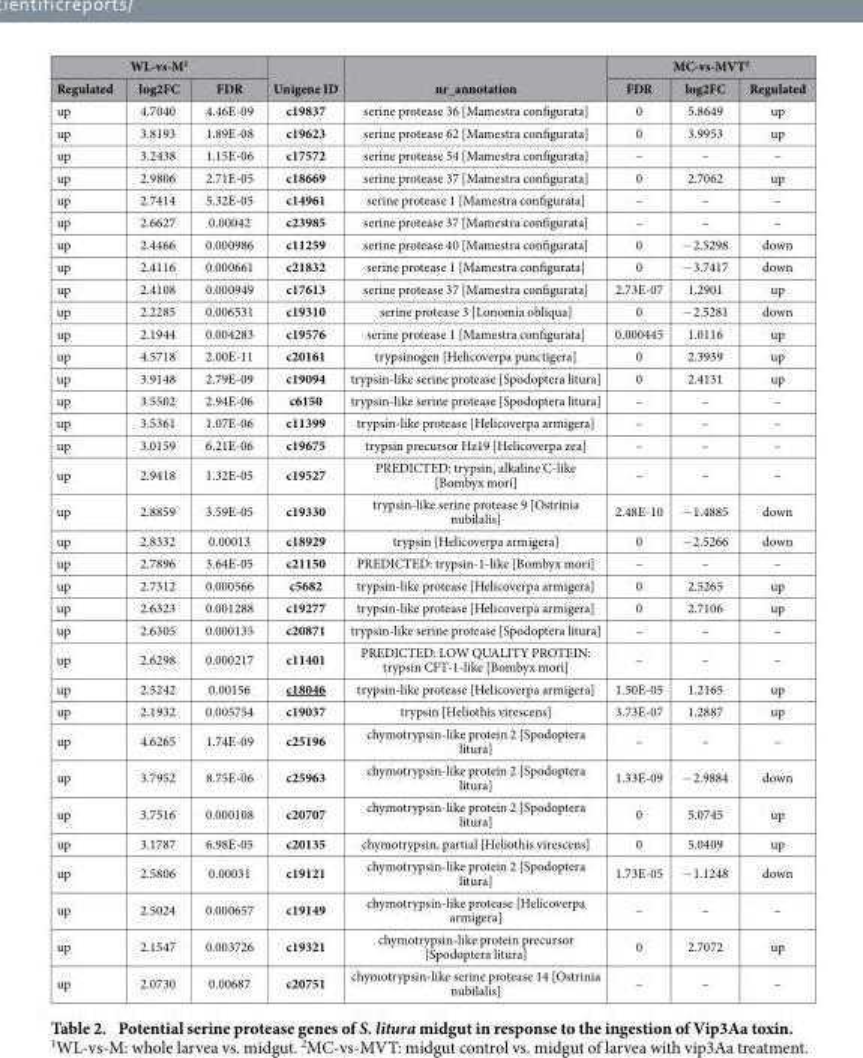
<table><thead><tr><td colspan="3">WL-vs-M<sup>1</sup></td><td rowspan="2">Unigene ID</td><td rowspan="2">nr_annotation</td><td colspan="3">MC-vs-MVT<sup>2</sup></td></tr><tr><td>Regulated</td><td>log2FC</td><td>FDR</td><td>FDR</td><td>log2FC</td><td>Regulated</td></tr></thead><tbody><tr><td>up</td><td>4.7040</td><td>4.46E-09</td><td>c19837</td><td>serine protease 36 [Mamestra configurata]</td><td>0</td><td>5.8649</td><td>up</td></tr><tr><td>up</td><td>3.8193</td><td>1.89E-08</td><td>c19623</td><td>serine protease 62 [Mamestra configurata]</td><td>0</td><td>3.9953</td><td>up</td></tr><tr><td>up</td><td>3.2438</td><td>1.15E-06</td><td>c17572</td><td>serine protease 54 [Mamestra configurata]</td><td>–</td><td>–</td><td>–</td></tr><tr><td>up</td><td>2.9806</td><td>2.71E-05</td><td>c18669</td><td>serine protease 37 [Mamestra configurata]</td><td>0</td><td>2.7062</td><td>up</td></tr><tr><td>up</td><td>2.7414</td><td>5.32E-05</td><td>c14961</td><td>serine protease 1 [Mamestra configurata]</td><td>–</td><td>–</td><td>–</td></tr><tr><td>up</td><td>2.6627</td><td>0.00042</td><td>c23985</td><td>serine protease 37 [Mamestra configurata]</td><td>–</td><td>–</td><td>–</td></tr><tr><td>up</td><td>2.4466</td><td>0.000986</td><td>c11259</td><td>serine protease 40 [Mamestra configurata]</td><td>0</td><td>− 2.5298</td><td>down</td></tr><tr><td>up</td><td>2.4116</td><td>0.000661</td><td>c21832</td><td>serine protease 1 [Mamestra configurata]</td><td>0</td><td>− 3.7417</td><td>down</td></tr><tr><td>up</td><td>2.4108</td><td>0.000949</td><td>c17613</td><td>serine protease 37 [Mamestra configurata]</td><td>2.73E-07</td><td>1.2901</td><td>up</td></tr><tr><td>up</td><td>2.2285</td><td>0.006531</td><td>c19310</td><td>serine protease 3 [Lonomia obliqua]</td><td>0</td><td>− 2.5281</td><td>down</td></tr><tr><td>up</td><td>2.1944</td><td>0.004283</td><td>c19576</td><td>serine protease 1 [Mamestra configurata]</td><td>0.000445</td><td>1.0116</td><td>up</td></tr><tr><td>up</td><td>4.5718</td><td>2.00E-11</td><td>c20161</td><td>trypsinogen [Helicoverpa punctigera]</td><td>0</td><td>2.3939</td><td>up</td></tr><tr><td>up</td><td>3.9148</td><td>2.79E-09</td><td>c19094</td><td>trypsin-like serine protease [Spodoptera litura]</td><td>0</td><td>2.4131</td><td>up</td></tr><tr><td>up</td><td>3.5502</td><td>2.94E-06</td><td>c6150</td><td>trypsin-like serine protease [Spodoptera litura]</td><td>–</td><td>–</td><td>–</td></tr><tr><td>up</td><td>3.5361</td><td>1.07E-06</td><td>c11399</td><td>trypsin-like protease [Helicoverpa armigera]</td><td>–</td><td>–</td><td>–</td></tr><tr><td>up</td><td>3.0159</td><td>6.21E-06</td><td>c19675</td><td>trypsin precursor Hz19 [Helicoverpa zea]</td><td>–</td><td>–</td><td>–</td></tr><tr><td>up</td><td>2.9418</td><td>1.32E-05</td><td>c19527</td><td>PREDICTED: trypsin, alkaline C-like [Bombyx mori]</td><td>–</td><td>–</td><td>–</td></tr><tr><td>up</td><td>2.8859</td><td>3.59E-05</td><td>c19330</td><td>trypsin-like serine protease 9 [Ostrinia nubilalis]</td><td>2.48E-10</td><td>− 1.4885</td><td>down</td></tr><tr><td>up</td><td>2.8332</td><td>0.00013</td><td>c18929</td><td>trypsin [Helicoverpa armigera]</td><td>0</td><td>− 2.5266</td><td>down</td></tr><tr><td>up</td><td>2.7896</td><td>3.64E-05</td><td>c21150</td><td>PREDICTED: trypsin-1-like [Bombyx mori]</td><td>–</td><td>–</td><td>–</td></tr><tr><td>up</td><td>2.7312</td><td>0.000566</td><td>c5682</td><td>trypsin-like protease [Helicoverpa armigera]</td><td>0</td><td>2.5265</td><td>up</td></tr><tr><td>up</td><td>2.6323</td><td>0.001288</td><td>c19277</td><td>trypsin-like protease [Helicoverpa armigera]</td><td>0</td><td>2.7106</td><td>up</td></tr><tr><td>up</td><td>2.6305</td><td>0.000135</td><td>c20871</td><td>trypsin-like serine protease [Spodoptera litura]</td><td>–</td><td>–</td><td>–</td></tr><tr><td>up</td><td>2.6298</td><td>0.000217</td><td>c11401</td><td>PREDICTED: LOW QUALITY PROTEIN: trypsin CFT-1-like [Bombyx mori]</td><td>–</td><td>–</td><td>–</td></tr><tr><td>up</td><td>2.5242</td><td>0.00156</td><td>c18046</td><td>trypsin-like protease [Helicoverpa armigera]</td><td>1.50E-05</td><td>1.2165</td><td>up</td></tr><tr><td>up</td><td>2.1932</td><td>0.005754</td><td>c19037</td><td>trypsin [Heliothis virescens]</td><td>3.73E-07</td><td>1.2887</td><td>up</td></tr><tr><td>up</td><td>4.6265</td><td>1.74E-09</td><td>c25196</td><td>chymotrypsin-like protein 2 [Spodoptera litura]</td><td>–</td><td>–</td><td>–</td></tr><tr><td>up</td><td>3.7952</td><td>8.75E-06</td><td>c25963</td><td>chymotrypsin-like protein 2 [Spodoptera litura]</td><td>1.33E-09</td><td>− 2.9884</td><td>down</td></tr><tr><td>up</td><td>3.7516</td><td>0.000108</td><td>c20707</td><td>chymotrypsin-like protein 2 [Spodoptera litura]</td><td>0</td><td>5.0745</td><td>up</td></tr><tr><td>up</td><td>3.1787</td><td>6.98E-05</td><td>c20135</td><td>chymotrypsin, partial [Heliothis virescens]</td><td>0</td><td>5.0409</td><td>up</td></tr><tr><td>up</td><td>2.5806</td><td>0.00031</td><td>c19121</td><td>chymotrypsin-like protein 2 [Spodoptera litura]</td><td>1.73E-05</td><td>− 1.1248</td><td>down</td></tr><tr><td>up</td><td>2.5024</td><td>0.000657</td><td>c19149</td><td>chymotrypsin-like protease [Helicoverpa armigera]</td><td>–</td><td>–</td><td>–</td></tr><tr><td>up</td><td>2.1547</td><td>0.003726</td><td>c19321</td><td>chymotrypsin-like protein precursor [Spodoptera litura]</td><td>0</td><td>2.7072</td><td>up</td></tr><tr><td>up</td><td>2.0730</td><td>0.00687</td><td>c20751</td><td>chymotrypsin-like serine protease 14 [Ostrinia nubilalis]</td><td>–</td><td>–</td><td>–</td></tr></tbody></table>